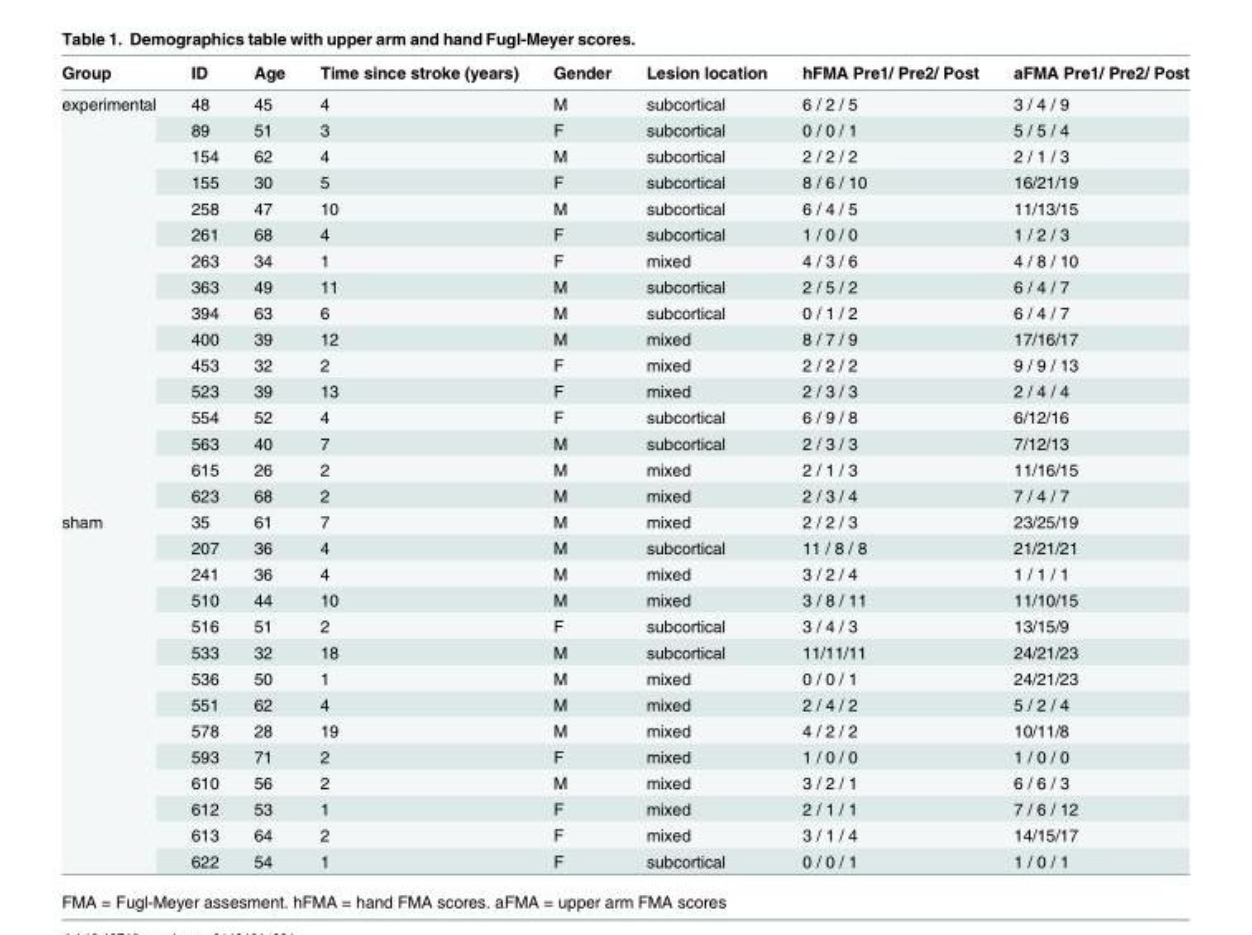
<table><thead><tr><td>Group</td><td>ID</td><td>Age</td><td>Time since stroke (years)</td><td>Gender</td><td>Lesion location</td><td>hFMA Pre1/ Pre2/ Post</td><td>aFMA Pre1/ Pre2/ Post</td></tr></thead><tbody><tr><td rowspan="16">experimental</td><td>48</td><td>45</td><td>4</td><td>M</td><td>subcortical</td><td>6 / 2 / 5</td><td>3 / 4 / 9</td></tr><tr><td>89</td><td>51</td><td>3</td><td>F</td><td>subcortical</td><td>0 / 0 / 1</td><td>5 / 5 / 4</td></tr><tr><td>154</td><td>62</td><td>4</td><td>M</td><td>subcortical</td><td>2 / 2 / 2</td><td>2 / 1 / 3</td></tr><tr><td>155</td><td>30</td><td>5</td><td>F</td><td>subcortical</td><td>8 / 6 / 10</td><td>16/21/19</td></tr><tr><td>258</td><td>47</td><td>10</td><td>M</td><td>subcortical</td><td>6 / 4 / 5</td><td>11/13/15</td></tr><tr><td>261</td><td>68</td><td>4</td><td>F</td><td>subcortical</td><td>1 / 0 / 0</td><td>1 / 2 / 3</td></tr><tr><td>263</td><td>34</td><td>1</td><td>F</td><td>mixed</td><td>4 / 3 / 6</td><td>4 / 8 / 10</td></tr><tr><td>363</td><td>49</td><td>11</td><td>M</td><td>subcortical</td><td>2 / 5 / 2</td><td>6 / 4 / 7</td></tr><tr><td>394</td><td>63</td><td>6</td><td>M</td><td>subcortical</td><td>0 / 1 / 2</td><td>6 / 4 / 7</td></tr><tr><td>400</td><td>39</td><td>12</td><td>M</td><td>mixed</td><td>8 / 7 / 9</td><td>17/16/17</td></tr><tr><td>453</td><td>32</td><td>2</td><td>F</td><td>mixed</td><td>2 / 2 / 2</td><td>9 / 9 / 13</td></tr><tr><td>523</td><td>39</td><td>13</td><td>F</td><td>mixed</td><td>2 / 3 / 3</td><td>2 / 4 / 4</td></tr><tr><td>554</td><td>52</td><td>4</td><td>F</td><td>subcortical</td><td>6 / 9 / 8</td><td>6/12/16</td></tr><tr><td>563</td><td>40</td><td>7</td><td>M</td><td>subcortical</td><td>2 / 3 / 3</td><td>7/12/13</td></tr><tr><td>615</td><td>26</td><td>2</td><td>M</td><td>mixed</td><td>2 / 1 / 3</td><td>11/16/15</td></tr><tr><td>623</td><td>68</td><td>2</td><td>M</td><td>mixed</td><td>2 / 3 / 4</td><td>7 / 4 / 7</td></tr><tr><td rowspan="14">sham</td><td>35</td><td>61</td><td>7</td><td>M</td><td>mixed</td><td>2 / 2 / 3</td><td>23/25/19</td></tr><tr><td>207</td><td>36</td><td>4</td><td>M</td><td>subcortical</td><td>11 / 8 / 8</td><td>21/21/21</td></tr><tr><td>241</td><td>36</td><td>4</td><td>M</td><td>mixed</td><td>3 / 2 / 4</td><td>1 / 1 / 1</td></tr><tr><td>510</td><td>44</td><td>10</td><td>M</td><td>mixed</td><td>3 / 8 / 11</td><td>11/10/15</td></tr><tr><td>516</td><td>51</td><td>2</td><td>F</td><td>subcortical</td><td>3 / 4 / 3</td><td>13/15/9</td></tr><tr><td>533</td><td>32</td><td>18</td><td>M</td><td>subcortical</td><td>11/11/11</td><td>24/21/23</td></tr><tr><td>536</td><td>50</td><td>1</td><td>M</td><td>mixed</td><td>0 / 0 / 1</td><td>24/21/23</td></tr><tr><td>551</td><td>62</td><td>4</td><td>M</td><td>mixed</td><td>2 / 4 / 2</td><td>5 / 2 / 4</td></tr><tr><td>578</td><td>28</td><td>19</td><td>M</td><td>mixed</td><td>4 / 2 / 2</td><td>10/11/8</td></tr><tr><td>593</td><td>71</td><td>2</td><td>F</td><td>mixed</td><td>1 / 0 / 0</td><td>1 / 0 / 0</td></tr><tr><td>610</td><td>56</td><td>2</td><td>M</td><td>mixed</td><td>3 / 2 / 1</td><td>6 / 6 / 3</td></tr><tr><td>612</td><td>53</td><td>1</td><td>F</td><td>mixed</td><td>2 / 1 / 1</td><td>7 / 6 / 12</td></tr><tr><td>613</td><td>64</td><td>2</td><td>F</td><td>mixed</td><td>3 / 1 / 4</td><td>14/15/17</td></tr><tr><td>622</td><td>54</td><td>1</td><td>F</td><td>subcortical</td><td>0 / 0 / 1</td><td>1 / 0 / 1</td></tr></tbody></table>